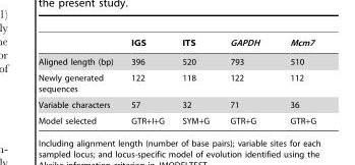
<table><thead><tr><td></td><td>IGS</td><td>ITS</td><td>GAPDH</td><td>Mcm7</td></tr></thead><tbody><tr><td>Aligned length (bp)</td><td>396</td><td>520</td><td>793</td><td>510</td></tr><tr><td>Newly generated sequences</td><td>122</td><td>118</td><td>122</td><td>112</td></tr><tr><td>Variable characters</td><td>57</td><td>32</td><td>71</td><td>36</td></tr><tr><td>Model selected</td><td>GTR+I+G</td><td>SYM+G</td><td>GTR+G</td><td>GTR+G</td></tr></tbody></table>